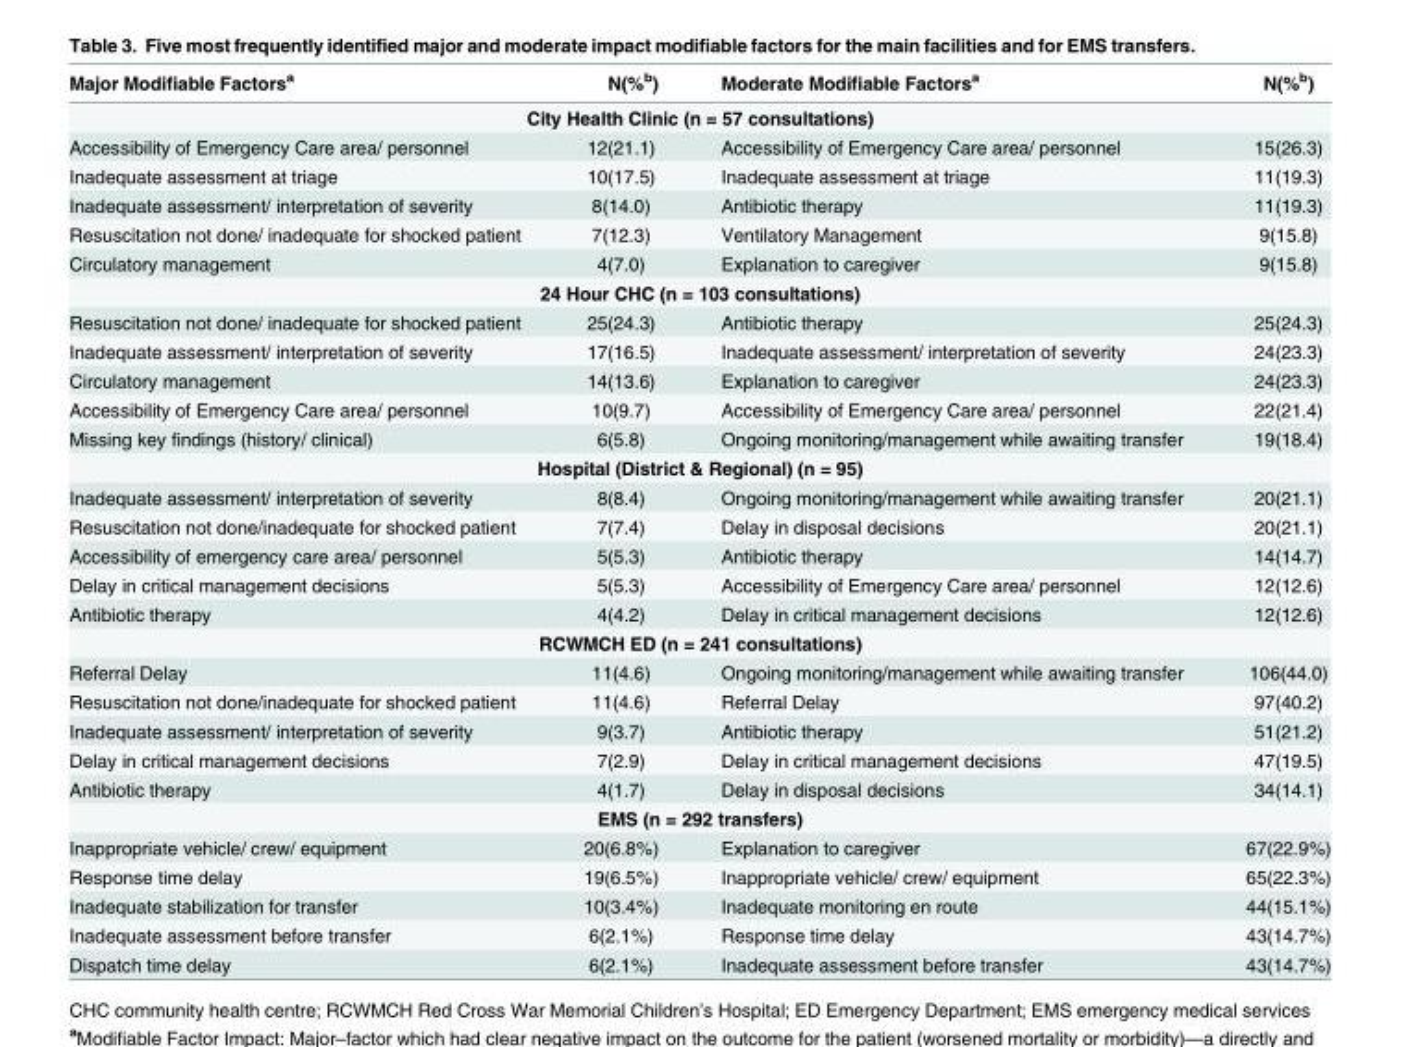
<table><thead><tr><td>Major Modifiable Factors<sup>a</sup></td><td>N(%<sup>b</sup>)</td><td>Moderate Modifiable Factors<sup>a</sup></td><td>N(%<sup>b</sup>)</td></tr></thead><tbody><tr><td colspan="4">City Health Clinic (n = 57 consultations)</td></tr><tr><td>Accessibility of Emergency Care area/ personnel</td><td>12(21.1)</td><td>Accessibility of Emergency Care area/ personnel</td><td>15(26.3)</td></tr><tr><td>Inadequate assessment at triage</td><td>10(17.5)</td><td>Inadequate assessment at triage</td><td>11(19.3)</td></tr><tr><td>Inadequate assessment/ interpretation of severity</td><td>8(14.0)</td><td>Antibiotic therapy</td><td>11(19.3)</td></tr><tr><td>Resuscitation not done/ inadequate for shocked patient</td><td>7(12.3)</td><td>Ventilatory Management</td><td>9(15.8)</td></tr><tr><td>Circulatory management</td><td>4(7.0)</td><td>Explanation to caregiver</td><td>9(15.8)</td></tr><tr><td colspan="4">24 Hour CHC (n = 103 consultations)</td></tr><tr><td>Resuscitation not done/ inadequate for shocked patient</td><td>25(24.3)</td><td>Antibiotic therapy</td><td>25(24.3)</td></tr><tr><td>Inadequate assessment/ interpretation of severity</td><td>17(16.5)</td><td>Inadequate assessment/ interpretation of severity</td><td>24(23.3)</td></tr><tr><td>Circulatory management</td><td>14(13.6)</td><td>Explanation to caregiver</td><td>24(23.3)</td></tr><tr><td>Accessibility of Emergency Care area/ personnel</td><td>10(9.7)</td><td>Accessibility of Emergency Care area/ personnel</td><td>22(21.4)</td></tr><tr><td>Missing key findings (history/ clinical)</td><td>6(5.8)</td><td>Ongoing monitoring/management while awaiting transfer</td><td>19(18.4)</td></tr><tr><td colspan="4">Hospital (District &amp; Regional) (n = 95)</td></tr><tr><td>Inadequate assessment/ interpretation of severity</td><td>8(8.4)</td><td>Ongoing monitoring/management while awaiting transfer</td><td>20(21.1)</td></tr><tr><td>Resuscitation not done/inadequate for shocked patient</td><td>7(7.4)</td><td>Delay in disposal decisions</td><td>20(21.1)</td></tr><tr><td>Accessibility of emergency care area/ personnel</td><td>5(5.3)</td><td>Antibiotic therapy</td><td>14(14.7)</td></tr><tr><td>Delay in critical management decisions</td><td>5(5.3)</td><td>Accessibility of Emergency Care area/ personnel</td><td>12(12.6)</td></tr><tr><td>Antibiotic therapy</td><td>4(4.2)</td><td>Delay in critical management decisions</td><td>12(12.6)</td></tr><tr><td colspan="4">RCWMCH ED (n = 241 consultations)</td></tr><tr><td>Referral Delay</td><td>11(4.6)</td><td>Ongoing monitoring/management while awaiting transfer</td><td>106(44.0)</td></tr><tr><td>Resuscitation not done/inadequate for shocked patient</td><td>11(4.6)</td><td>Referral Delay</td><td>97(40.2)</td></tr><tr><td>Inadequate assessment/ interpretation of severity</td><td>9(3.7)</td><td>Antibiotic therapy</td><td>51(21.2)</td></tr><tr><td>Delay in critical management decisions</td><td>7(2.9)</td><td>Delay in critical management decisions</td><td>47(19.5)</td></tr><tr><td>Antibiotic therapy</td><td>4(1.7)</td><td>Delay in disposal decisions</td><td>34(14.1)</td></tr><tr><td colspan="4">EMS (n = 292 transfers)</td></tr><tr><td>Inappropriate vehicle/ crew/ equipment</td><td>20(6.8%)</td><td>Explanation to caregiver</td><td>67(22.9%)</td></tr><tr><td>Response time delay</td><td>19(6.5%)</td><td>Inappropriate vehicle/ crew/ equipment</td><td>65(22.3%)</td></tr><tr><td>Inadequate stabilization for transfer</td><td>10(3.4%)</td><td>Inadequate monitoring en route</td><td>44(15.1%)</td></tr><tr><td>Inadequate assessment before transfer</td><td>6(2.1%)</td><td>Response time delay</td><td>43(14.7%)</td></tr><tr><td>Dispatch time delay</td><td>6(2.1%)</td><td>Inadequate assessment before transfer</td><td>43(14.7%)</td></tr></tbody></table>